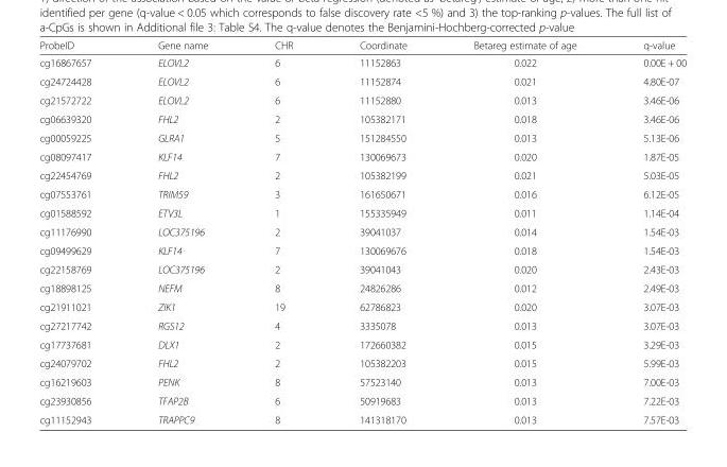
<table><thead><tr><td>ProbeID</td><td>Gene name</td><td>CHR</td><td>Coordinate</td><td>Betareg estimate of age</td><td>q-value</td></tr></thead><tbody><tr><td>cg16867657</td><td>ELOVL2</td><td>6</td><td>11152863</td><td>0.022</td><td>0.00E + 00</td></tr><tr><td>cg24724428</td><td>ELOVL2</td><td>6</td><td>11152874</td><td>0.021</td><td>4.80E-07</td></tr><tr><td>cg21572722</td><td>ELOVL2</td><td>6</td><td>11152880</td><td>0.013</td><td>3.46E-06</td></tr><tr><td>cg06639320</td><td>FHL2</td><td>2</td><td>105382171</td><td>0.018</td><td>3.46E-06</td></tr><tr><td>cg00059225</td><td>GLRA1</td><td>5</td><td>151284550</td><td>0.013</td><td>5.13E-06</td></tr><tr><td>cg08097417</td><td>KLF14</td><td>7</td><td>130069673</td><td>0.020</td><td>1.87E-05</td></tr><tr><td>cg22454769</td><td>FHL2</td><td>2</td><td>105382199</td><td>0.021</td><td>5.03E-05</td></tr><tr><td>cg07553761</td><td>TRIM59</td><td>3</td><td>161650671</td><td>0.016</td><td>6.12E-05</td></tr><tr><td>cg01588592</td><td>ETV3L</td><td>1</td><td>155335949</td><td>0.011</td><td>1.14E-04</td></tr><tr><td>cg11176990</td><td>LOC375196</td><td>2</td><td>39041037</td><td>0.014</td><td>1.54E-03</td></tr><tr><td>cg09499629</td><td>KLF14</td><td>7</td><td>130069676</td><td>0.018</td><td>1.54E-03</td></tr><tr><td>cg22158769</td><td>LOC375196</td><td>2</td><td>39041043</td><td>0.020</td><td>2.43E-03</td></tr><tr><td>cg18898125</td><td>NEFM</td><td>8</td><td>24826286</td><td>0.012</td><td>2.49E-03</td></tr><tr><td>cg21911021</td><td>ZIK1</td><td>19</td><td>62786823</td><td>0.020</td><td>3.07E-03</td></tr><tr><td>cg27217742</td><td>RGS12</td><td>4</td><td>3335078</td><td>0.013</td><td>3.07E-03</td></tr><tr><td>cg17737681</td><td>DLX1</td><td>2</td><td>172660382</td><td>0.015</td><td>3.29E-03</td></tr><tr><td>cg24079702</td><td>FHL2</td><td>2</td><td>105382203</td><td>0.015</td><td>5.99E-03</td></tr><tr><td>cg16219603</td><td>PENK</td><td>8</td><td>57523140</td><td>0.013</td><td>7.00E-03</td></tr><tr><td>cg23930856</td><td>TFAP2B</td><td>6</td><td>50919683</td><td>0.013</td><td>7.22E-03</td></tr><tr><td>cg11152943</td><td>TRAPPC9</td><td>8</td><td>141318170</td><td>0.013</td><td>7.57E-03</td></tr></tbody></table>